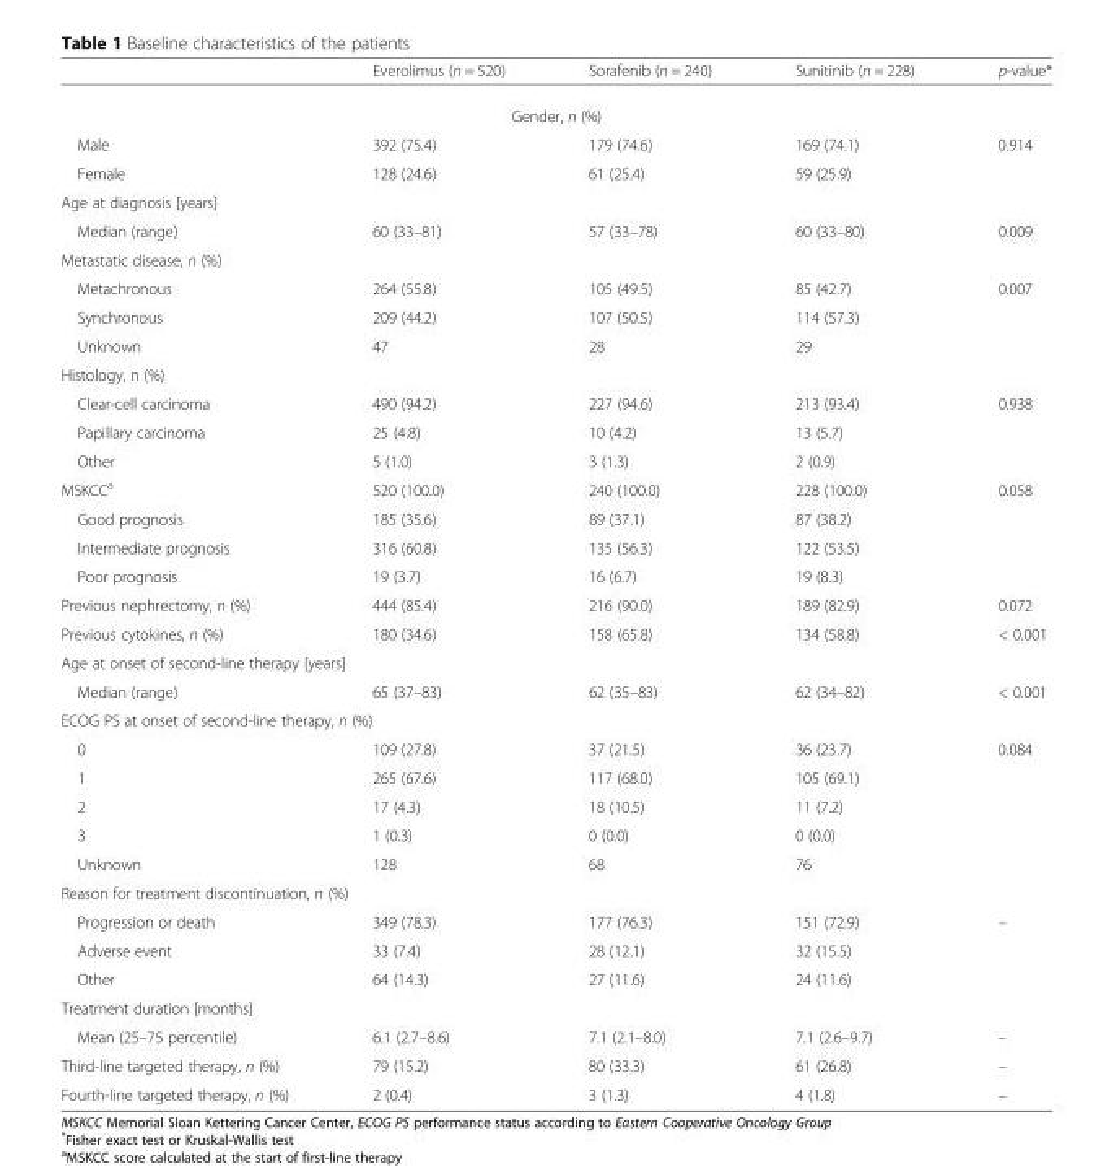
<table><thead><tr><td></td><td>Everolimus (n = 520)</td><td>Sorafenib (n = 240)</td><td>Sunitinib (n = 228)</td><td>p-value*</td></tr></thead><tbody><tr><td colspan="5">Gender, n (%)</td></tr><tr><td>Male</td><td>392 (75.4)</td><td>179 (74.6)</td><td>169 (74.1)</td><td>0.914</td></tr><tr><td>Female</td><td>128 (24.6)</td><td>61 (25.4)</td><td>59 (25.9)</td><td></td></tr><tr><td colspan="5">Age at diagnosis [years]</td></tr><tr><td>Median (range)</td><td>60 (33–81)</td><td>57 (33–78)</td><td>60 (33–80)</td><td>0.009</td></tr><tr><td colspan="5">Metastatic disease, n (%)</td></tr><tr><td>Metachronous</td><td>264 (55.8)</td><td>105 (49.5)</td><td>85 (42.7)</td><td>0.007</td></tr><tr><td>Synchronous</td><td>209 (44.2)</td><td>107 (50.5)</td><td>114 (57.3)</td><td></td></tr><tr><td>Unknown</td><td>47</td><td>28</td><td>29</td><td></td></tr><tr><td colspan="5">Histology, n (%)</td></tr><tr><td>Clear-cell carcinoma</td><td>490 (94.2)</td><td>227 (94.6)</td><td>213 (93.4)</td><td>0.938</td></tr><tr><td>Papillary carcinoma</td><td>25 (4.8)</td><td>10 (4.2)</td><td>13 (5.7)</td><td></td></tr><tr><td>Other</td><td>5 (1.0)</td><td>3 (1.3)</td><td>2 (0.9)</td><td></td></tr><tr><td>MSKCC<sup>a</sup></td><td>520 (100.0)</td><td>240 (100.0)</td><td>228 (100.0)</td><td>0.058</td></tr><tr><td>Good prognosis</td><td>185 (35.6)</td><td>89 (37.1)</td><td>87 (38.2)</td><td></td></tr><tr><td>Intermediate prognosis</td><td>316 (60.8)</td><td>135 (56.3)</td><td>122 (53.5)</td><td></td></tr><tr><td>Poor prognosis</td><td>19 (3.7)</td><td>16 (6.7)</td><td>19 (8.3)</td><td></td></tr><tr><td>Previous nephrectomy, n (%)</td><td>444 (85.4)</td><td>216 (90.0)</td><td>189 (82.9)</td><td>0.072</td></tr><tr><td>Previous cytokines, n (%)</td><td>180 (34.6)</td><td>158 (65.8)</td><td>134 (58.8)</td><td>&lt; 0.001</td></tr><tr><td colspan="5">Age at onset of second-line therapy [years]</td></tr><tr><td>Median (range)</td><td>65 (37–83)</td><td>62 (35–83)</td><td>62 (34–82)</td><td>&lt; 0.001</td></tr><tr><td colspan="5">ECOG PS at onset of second-line therapy, n (%)</td></tr><tr><td>0</td><td>109 (27.8)</td><td>37 (21.5)</td><td>36 (23.7)</td><td>0.084</td></tr><tr><td>1</td><td>265 (67.6)</td><td>117 (68.0)</td><td>105 (69.1)</td><td></td></tr><tr><td>2</td><td>17 (4.3)</td><td>18 (10.5)</td><td>11 (7.2)</td><td></td></tr><tr><td>3</td><td>1 (0.3)</td><td>0 (0.0)</td><td>0 (0.0)</td><td></td></tr><tr><td>Unknown</td><td>128</td><td>68</td><td>76</td><td></td></tr><tr><td colspan="5">Reason for treatment discontinuation, n (%)</td></tr><tr><td>Progression or death</td><td>349 (78.3)</td><td>177 (76.3)</td><td>151 (72.9)</td><td>–</td></tr><tr><td>Adverse event</td><td>33 (7.4)</td><td>28 (12.1)</td><td>32 (15.5)</td><td></td></tr><tr><td>Other</td><td>64 (14.3)</td><td>27 (11.6)</td><td>24 (11.6)</td><td></td></tr><tr><td colspan="5">Treatment duration [months]</td></tr><tr><td>Mean (25–75 percentile)</td><td>6.1 (2.7–8.6)</td><td>7.1 (2.1–8.0)</td><td>7.1 (2.6–9.7)</td><td>–</td></tr><tr><td>Third-line targeted therapy, n (%)</td><td>79 (15.2)</td><td>80 (33.3)</td><td>61 (26.8)</td><td>–</td></tr><tr><td>Fourth-line targeted therapy, n (%)</td><td>2 (0.4)</td><td>3 (1.3)</td><td>4 (1.8)</td><td>–</td></tr></tbody></table>